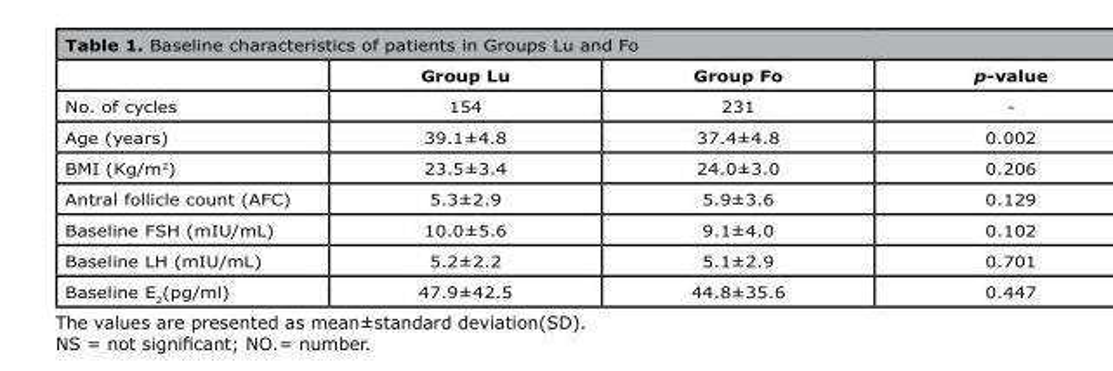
<table><thead><tr><td></td><td>Group Lu</td><td>Group Fo</td><td>p-value</td></tr></thead><tbody><tr><td>No. of cycles</td><td>154</td><td>231</td><td>-</td></tr><tr><td>Age (years)</td><td>39.1±4.8</td><td>37.4±4.8</td><td>0.002</td></tr><tr><td>BMI (Kg/m<sup>2</sup>)</td><td>23.5±3.4</td><td>24.0±3.0</td><td>0.206</td></tr><tr><td>Antral follicle count (AFC)</td><td>5.3±2.9</td><td>5.9±3.6</td><td>0.129</td></tr><tr><td>Baseline FSH (mIU/mL)</td><td>10.0±5.6</td><td>9.1±4.0</td><td>0.102</td></tr><tr><td>Baseline LH (mIU/mL)</td><td>5.2±2.2</td><td>5.1±2.9</td><td>0.701</td></tr><tr><td>Baseline E<sub>2</sub>(pg/ml)</td><td>47.9±42.5</td><td>44.8±35.6</td><td>0.447</td></tr></tbody></table>